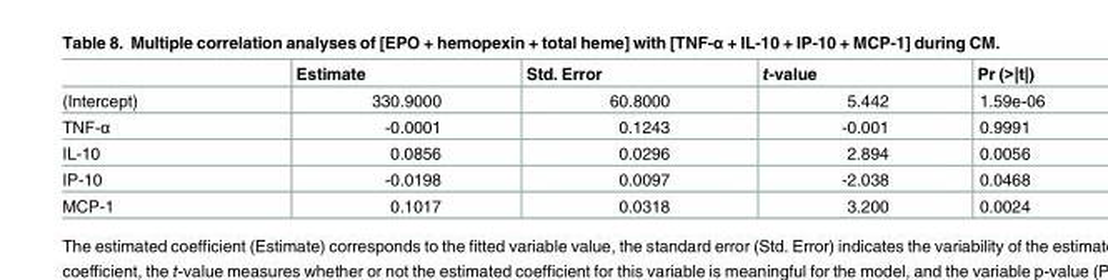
<table><thead><tr><td></td><td>Estimate</td><td>Std. Error</td><td>t-value</td><td>Pr (&gt;|t|)</td></tr></thead><tbody><tr><td>(Intercept)</td><td>330.9000</td><td>60.8000</td><td>5.442</td><td>1.59e-06</td></tr><tr><td>TNF-α</td><td>-0.0001</td><td>0.1243</td><td>-0.001</td><td>0.9991</td></tr><tr><td>IL-10</td><td>0.0856</td><td>0.0296</td><td>2.894</td><td>0.0056</td></tr><tr><td>IP-10</td><td>-0.0198</td><td>0.0097</td><td>-2.038</td><td>0.0468</td></tr><tr><td>MCP-1</td><td>0.1017</td><td>0.0318</td><td>3.200</td><td>0.0024</td></tr></tbody></table>